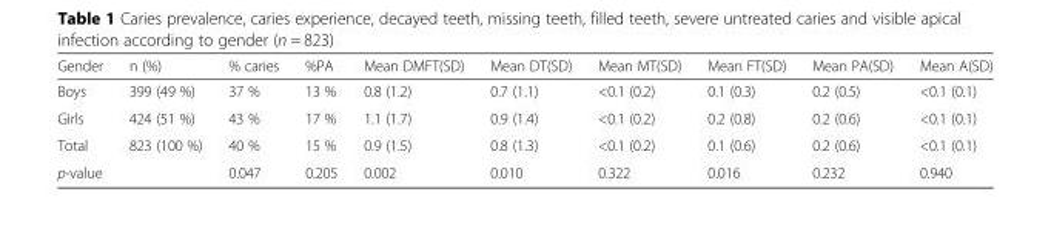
<table><thead><tr><td>Gender</td><td>n (%)</td><td>% caries</td><td>%PA</td><td>Mean DMFT(SD)</td><td>Mean DT(SD)</td><td>Mean MT(SD)</td><td>Mean FT(SD)</td><td>Mean PA(SD)</td><td>Mean A(SD)</td></tr></thead><tbody><tr><td>Boys</td><td>399 (49 %)</td><td>37 %</td><td>13 %</td><td>0.8 (1.2)</td><td>0.7 (1.1)</td><td>&lt;0.1 (0.2)</td><td>0.1 (0.3)</td><td>0.2 (0.5)</td><td>&lt;0.1 (0.1)</td></tr><tr><td>Girls</td><td>424 (51 %)</td><td>43 %</td><td>17 %</td><td>1.1 (1.7)</td><td>0.9 (1.4)</td><td>&lt;0.1 (0.2)</td><td>0.2 (0.8)</td><td>0.2 (0.6)</td><td>&lt;0.1 (0.1)</td></tr><tr><td>Total</td><td>823 (100 %)</td><td>40 %</td><td>15 %</td><td>0.9 (1.5)</td><td>0.8 (1.3)</td><td>&lt;0.1 (0.2)</td><td>0.1 (0.6)</td><td>0.2 (0.6)</td><td>&lt;0.1 (0.1)</td></tr><tr><td colspan="2">p-value</td><td>0.047</td><td>0.205</td><td>0.002</td><td>0.010</td><td>0.322</td><td>0.016</td><td>0.232</td><td>0.940</td></tr></tbody></table>